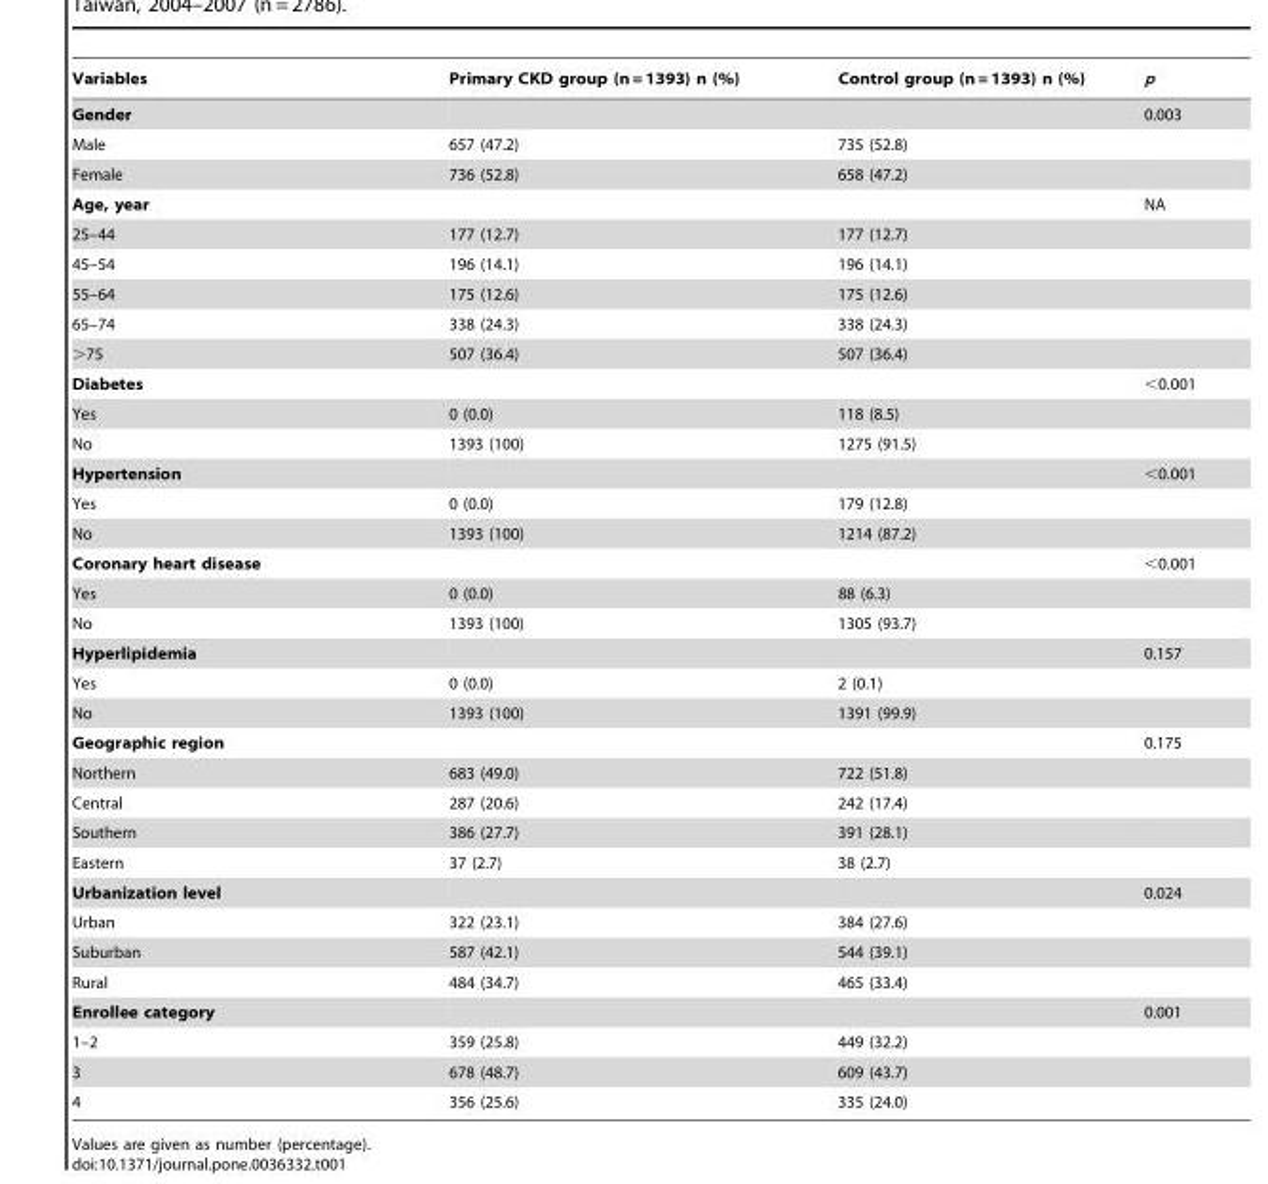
<table><thead><tr><td>Variables</td><td>Primary CKD group (n = 1393) n (%)</td><td>Control group (n = 1393) n (%)</td><td>p</td></tr></thead><tbody><tr><td>Gender</td><td></td><td></td><td>0.003</td></tr><tr><td>Male</td><td>657 (47.2)</td><td>735 (52.8)</td><td></td></tr><tr><td>Female</td><td>736 (52.8)</td><td>658 (47.2)</td><td></td></tr><tr><td>Age, year</td><td></td><td></td><td>NA</td></tr><tr><td>25–44</td><td>177 (12.7)</td><td>177 (12.7)</td><td></td></tr><tr><td>45–54</td><td>196 (14.1)</td><td>196 (14.1)</td><td></td></tr><tr><td>55–64</td><td>175 (12.6)</td><td>175 (12.6)</td><td></td></tr><tr><td>65–74</td><td>338 (24.3)</td><td>338 (24.3)</td><td></td></tr><tr><td>&gt;75</td><td>507 (36.4)</td><td>507 (36.4)</td><td></td></tr><tr><td>Diabetes</td><td></td><td></td><td>&lt;0.001</td></tr><tr><td>Yes</td><td>0 (0.0)</td><td>118 (8.5)</td><td></td></tr><tr><td>No</td><td>1393 (100)</td><td>1275 (91.5)</td><td></td></tr><tr><td>Hypertension</td><td></td><td></td><td>&lt;0.001</td></tr><tr><td>Yes</td><td>0 (0.0)</td><td>179 (12.8)</td><td></td></tr><tr><td>No</td><td>1393 (100)</td><td>1214 (87.2)</td><td></td></tr><tr><td>Coronary heart disease</td><td></td><td></td><td>&lt;0.001</td></tr><tr><td>Yes</td><td>0 (0.0)</td><td>88 (6.3)</td><td></td></tr><tr><td>No</td><td>1393 (100)</td><td>1305 (93.7)</td><td></td></tr><tr><td>Hyperlipidemia</td><td></td><td></td><td>0.157</td></tr><tr><td>Yes</td><td>0 (0.0)</td><td>2 (0.1)</td><td></td></tr><tr><td>No</td><td>1393 (100)</td><td>1391 (99.9)</td><td></td></tr><tr><td>Geographic region</td><td></td><td></td><td>0.175</td></tr><tr><td>Northern</td><td>683 (49.0)</td><td>722 (51.8)</td><td></td></tr><tr><td>Central</td><td>287 (20.6)</td><td>242 (17.4)</td><td></td></tr><tr><td>Southern</td><td>386 (27.7)</td><td>391 (28.1)</td><td></td></tr><tr><td>Eastern</td><td>37 (2.7)</td><td>38 (2.7)</td><td></td></tr><tr><td>Urbanization level</td><td></td><td></td><td>0.024</td></tr><tr><td>Urban</td><td>322 (23.1)</td><td>384 (27.6)</td><td></td></tr><tr><td>Suburban</td><td>587 (42.1)</td><td>544 (39.1)</td><td></td></tr><tr><td>Rural</td><td>484 (34.7)</td><td>465 (33.4)</td><td></td></tr><tr><td>Enrollee category</td><td></td><td></td><td>0.001</td></tr><tr><td>1–2</td><td>359 (25.8)</td><td>449 (32.2)</td><td></td></tr><tr><td>3</td><td>678 (48.7)</td><td>609 (43.7)</td><td></td></tr><tr><td>4</td><td>356 (25.6)</td><td>335 (24.0)</td><td></td></tr></tbody></table>